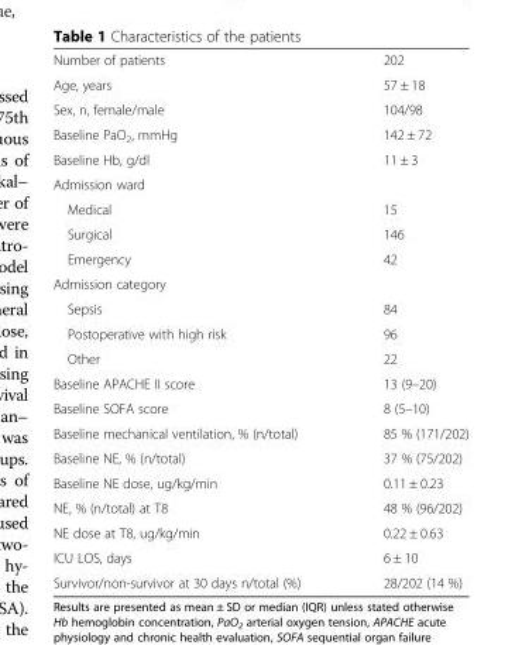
<table><tbody><tr><td>Number of patients</td><td>202</td></tr><tr><td>Age, years</td><td>57 ± 18</td></tr><tr><td>Sex, n, female/male</td><td>104/98</td></tr><tr><td>Baseline PaO<sub>2</sub>, mmHg</td><td>142 ± 72</td></tr><tr><td>Baseline Hb, g/dl</td><td>11 ± 3</td></tr><tr><td colspan="2">Admission ward</td></tr><tr><td>Medical</td><td>15</td></tr><tr><td>Surgical</td><td>146</td></tr><tr><td>Emergency</td><td>42</td></tr><tr><td colspan="2">Admission category</td></tr><tr><td>Sepsis</td><td>84</td></tr><tr><td>Postoperative with high risk</td><td>96</td></tr><tr><td>Other</td><td>22</td></tr><tr><td>Baseline APACHE II score</td><td>13 (9–20)</td></tr><tr><td>Baseline SOFA score</td><td>8 (5–10)</td></tr><tr><td>Baseline mechanical ventilation, % (n/total)</td><td>85 % (171/202)</td></tr><tr><td>Baseline NE, % (n/total)</td><td>37 % (75/202)</td></tr><tr><td>Baseline NE dose, ug/kg/min</td><td>0.11 ± 0.23</td></tr><tr><td>NE, % (n/total) at T8</td><td>48 % (96/202)</td></tr><tr><td>NE dose at T8, ug/kg/min</td><td>0.22 ± 0.63</td></tr><tr><td>ICU LOS, days</td><td>6 ± 10</td></tr><tr><td>Survivor/non-survivor at 30 days n/total (%)</td><td>28/202 (14 %)</td></tr></tbody></table>